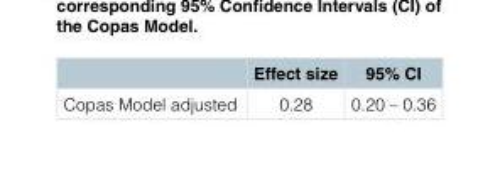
<table><thead><tr><td></td><td>Effect size</td><td>95% CI</td></tr></thead><tbody><tr><td>Copas Model adjusted</td><td>0.28</td><td>0.20 – 0.36</td></tr></tbody></table>